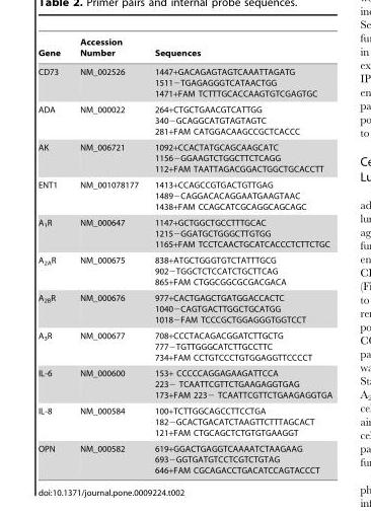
<table><thead><tr><td>Gene</td><td>Accession Number</td><td>Sequences</td></tr></thead><tbody><tr><td>CD73</td><td>NM_002526</td><td>1447+GACAGAGTAGTCAAATTAGATG 1511−TGAGAGGGTCATAACTGG 1471+FAM TCTTTGCACCAAGTGTCGAGTGC</td></tr><tr><td>ADA</td><td>NM_000022</td><td>264+CTGCTGAACGTCATTGG 340−GCAGGCATGTAGTAGTC 281+FAM CATGGACAAGCCGCTCACCC</td></tr><tr><td>AK</td><td>NM_006721</td><td>1092+CCACTATGCAGCAAGCATC 1156−GGAAGTCTGGCTTCTCAGG 112+FAM TAATTAGACGGACTGGCTGCACCTT</td></tr><tr><td>ENT1</td><td>NM_001078177</td><td>1413+CCAGCCGTGACTGTTGAG 1489−CAGGACACAGGAATGAAGTAAC 1438+FAM CCAGCATCGCAGGCAGCAGC</td></tr><tr><td>A<sub>1</sub>R</td><td>NM_000647</td><td>1147+GCTGGCTGCCTTTGCAC 1215−GGATGCTGGGCTTGTGG 1165+FAM TCCTCAACTGCATCACCCTCTTCTGC</td></tr><tr><td>A<sub>2A</sub>R</td><td>NM_000675</td><td>838+ATGCTGGGTGTCTATTTGCG 902−TGGCTCTCCATCTGCTTCAG 865+FAM CTGGCGGCGCGACGACA</td></tr><tr><td>A<sub>2B</sub>R</td><td>NM_000676</td><td>977+CACTGAGCTGATGGACCACTC 1040−CAGTGACTTGGCTGCATGG 1018−FAM TCCCGCTGGAGGGTGGTCCT</td></tr><tr><td>A<sub>3</sub>R</td><td>NM_000677</td><td>708+CCCTACAGACGGATCTTGCTG 777−TGTTGGGCATCTTGCCTTC 734+FAM CCTGTCCCTGTGGAGGTTCCCCT</td></tr><tr><td>IL-6</td><td>NM_000600</td><td>153+ CCCCCAGGAGAAGATTCCA 223− TCAATTCGTTCTGAAGAGGTGAG 173+FAM 223− TCAATTCGTTCTGAAGAGGTGA</td></tr><tr><td>IL-8</td><td>NM_000584</td><td>100+TCTTGGCAGCCTTCCTGA 182−GCACTGACATCTAAGTTCTTTAGCACT 121+FAM CTGCAGCTCTGTGTGAAGGT</td></tr><tr><td>OPN</td><td>NM_000582</td><td>619+GGACTGAGGTCAAAATCTAAGAAG 693−GGTGATGTCCTCGTCTGTAG 646+FAM CGCAGACCTGACATCCAGTACCCT</td></tr></tbody></table>